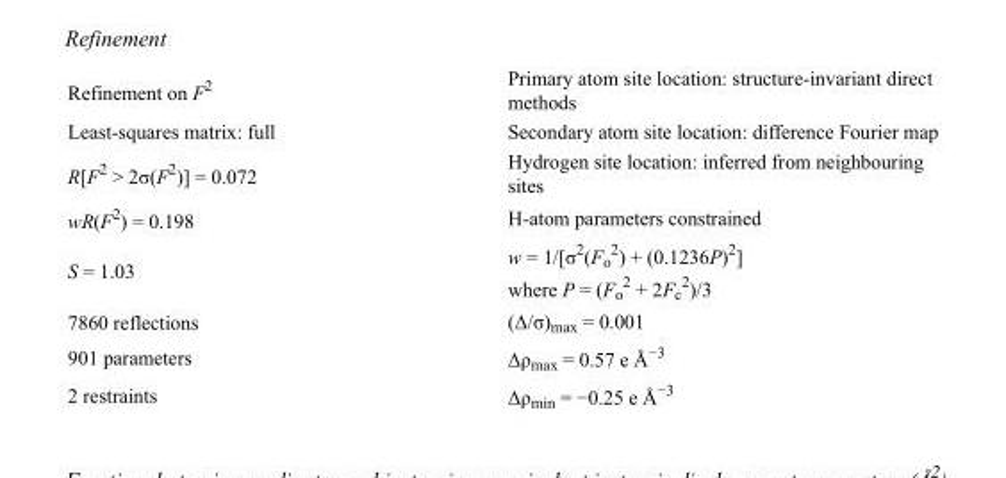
<table><tbody><tr><td>Refinement on F<sup>2</sup></td><td>Primary atom site location: structure-invariant direct methods</td></tr><tr><td>Least-squares matrix: full</td><td>Secondary atom site location: difference Fourier map</td></tr><tr><td>R[F<sup>2</sup> &gt; 2σ(F<sup>2</sup>)] = 0.072</td><td>Hydrogen site location: inferred from neighbouring sites</td></tr><tr><td>wR(F<sup>2</sup>) = 0.198</td><td>H-atom parameters constrained</td></tr><tr><td>S = 1.03</td><td>w = 1/[σ<sup>2</sup>(F<sub>o</sub> <sup>2</sup>) + (0.1236P)<sup>2</sup>] where P = (F<sub>o</sub> <sup>2</sup> + 2F<sub>c</sub> <sup>2</sup>)/3</td></tr><tr><td>7860 reflections</td><td>(Δ/σ)<sub>max</sub> = 0.001</td></tr><tr><td>901 parameters</td><td>Δρ<sub>max</sub> = 0.57 e Å<sup>−3</sup></td></tr><tr><td>2 restraints</td><td>Δρ<sub>min</sub> = −0.25 e Å<sup>−3</sup></td></tr></tbody></table>